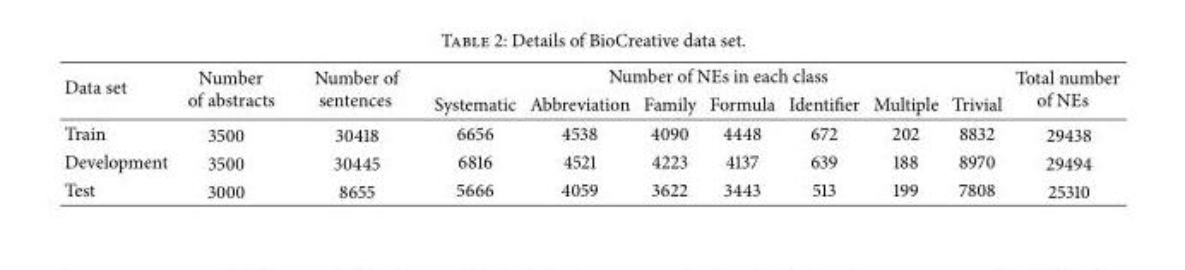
<table><thead><tr><td rowspan="2">Data set</td><td rowspan="2">Number of abstracts</td><td rowspan="2">Number of sentences</td><td colspan="7">Number of NEs in each class</td><td rowspan="2">Total number of NEs</td></tr><tr><td>Systematic</td><td>Abbreviation</td><td>Family</td><td>Formula</td><td>Identifier</td><td>Multiple</td><td>Trivial</td></tr></thead><tbody><tr><td>Train</td><td>3500</td><td>30418</td><td>6656</td><td>4538</td><td>4090</td><td>4448</td><td>672</td><td>202</td><td>8832</td><td>29438</td></tr><tr><td>Development</td><td>3500</td><td>30445</td><td>6816</td><td>4521</td><td>4223</td><td>4137</td><td>639</td><td>188</td><td>8970</td><td>29494</td></tr><tr><td>Test</td><td>3000</td><td>8655</td><td>5666</td><td>4059</td><td>3622</td><td>3443</td><td>513</td><td>199</td><td>7808</td><td>25310</td></tr></tbody></table>